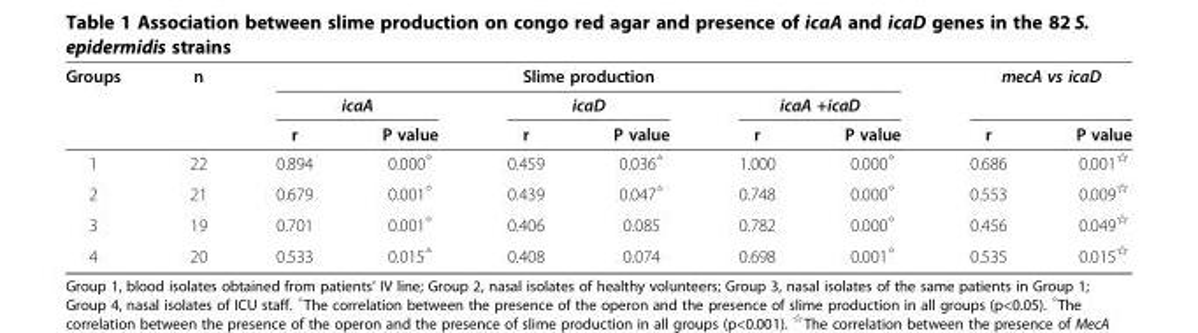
<table><thead><tr><td rowspan="3">Groups</td><td rowspan="3">n</td><td colspan="6">Slime production</td><td rowspan="2" colspan="2">mecA vs icaD</td></tr><tr><td colspan="2">icaA</td><td colspan="2">icaD</td><td colspan="2">icaA +icaD</td></tr><tr><td>r</td><td>P value</td><td>r</td><td>P value</td><td>r</td><td>P value</td><td>r</td><td>P value</td></tr></thead><tbody><tr><td>1</td><td>22</td><td>0.894</td><td>0.000<sup>◇</sup></td><td>0.459</td><td>0.036<sup>△</sup></td><td>1.000</td><td>0.000<sup>◇</sup></td><td>0.686</td><td>0.001<sup>☆</sup></td></tr><tr><td>2</td><td>21</td><td>0.679</td><td>0.001<sup>◇</sup></td><td>0.439</td><td>0.047<sup>△</sup></td><td>0.748</td><td>0.000<sup>◇</sup></td><td>0.553</td><td>0.009<sup>☆</sup></td></tr><tr><td>3</td><td>19</td><td>0.701</td><td>0.001<sup>◇</sup></td><td>0.406</td><td>0.085</td><td>0.782</td><td>0.000<sup>◇</sup></td><td>0.456</td><td>0.049<sup>☆</sup></td></tr><tr><td>4</td><td>20</td><td>0.533</td><td>0.015<sup>△</sup></td><td>0.408</td><td>0.074</td><td>0.698</td><td>0.001<sup>◇</sup></td><td>0.535</td><td>0.015<sup>☆</sup></td></tr></tbody></table>